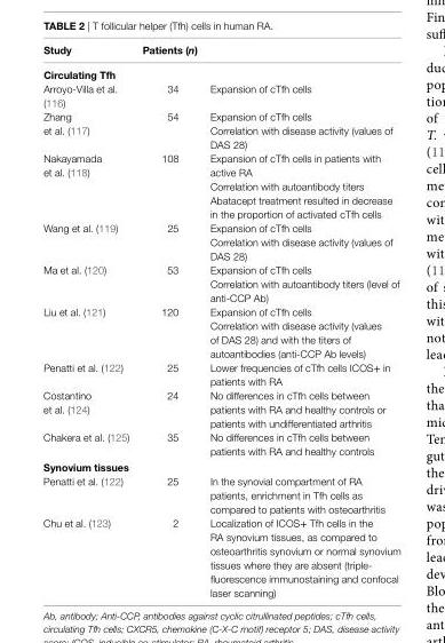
<table><thead><tr><td>Study</td><td>Patients (n)</td><td></td></tr></thead><tbody><tr><td colspan="3">Circulating Tfh</td></tr><tr><td>Arroyo-Villa et al. (116)</td><td>34</td><td>Expansion of cTfh cells</td></tr><tr><td>Zhang et al. (117)</td><td>54</td><td>Expansion of cTfh cells Correlation with disease activity (values of DAS 28)</td></tr><tr><td>Nakayamada et al. (118)</td><td>108</td><td>Expansion of cTfh cells in patients with active RA Correlation with autoantibody titers Abatacept treatment resulted in decrease in the proportion of activated cTfh cells</td></tr><tr><td>Wang et al. (119)</td><td>25</td><td>Expansion of cTfh cells Correlation with disease activity (values of DAS 28)</td></tr><tr><td>Ma et al. (120)</td><td>53</td><td>Expansion of cTfh cells Correlation with autoantibody titers (level of anti-CCP Ab)</td></tr><tr><td>Liu et al. (121)</td><td>120</td><td>Expansion of cTfh cells Correlation with disease activity (values of DAS 28) and with the titers of autoantibodies (anti-CCP Ab levels)</td></tr><tr><td>Penatti et al. (122)</td><td>25</td><td>Lower frequencies of cTfh cells ICOS+ in patients with RA</td></tr><tr><td>Costantino et al. (124)</td><td>24</td><td>No differences in cTfh cells between patients with RA and healthy controls or patients with undifferentiated arthritis</td></tr><tr><td>Chakera et al. (125)</td><td>35</td><td>No differences in cTfh cells between patients with RA and healthy controls</td></tr><tr><td colspan="3">Synovium tissues</td></tr><tr><td>Penatti et al. (122)</td><td>25</td><td>In the synovial compartment of RA patients, enrichment in Tfh cells as compared to patients with osteoarthritis</td></tr><tr><td>Chu et al. (123)</td><td>2</td><td>Localization of ICOS+ Tfh cells in the RA synovium tissues, as compared to osteoarthritis synovium or normal synovium tissues where they are absent (triple- fluorescence immunostaining and confocal laser scanning)</td></tr></tbody></table>